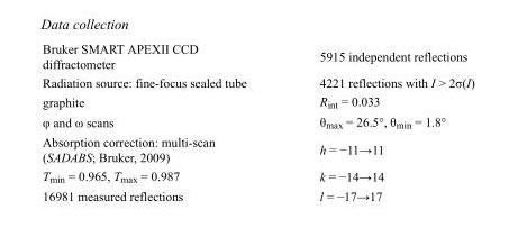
<table><tbody><tr><td>Bruker SMART APEXII CCD diffractometer</td><td>5915 independent reflections</td></tr><tr><td>Radiation source: fine-focus sealed tube</td><td>4221 reflections with I &gt; 2σ(I)</td></tr><tr><td>graphite</td><td>R<sub>int</sub> = 0.033</td></tr><tr><td>φ and ω scans</td><td>θ<sub>max</sub> = 26.5°, θ<sub>min</sub> = 1.8°</td></tr><tr><td>Absorption correction: multi-scan (SADABS; Bruker, 2009)</td><td>h = −11→11</td></tr><tr><td>T<sub>min</sub> = 0.965, T<sub>max</sub> = 0.987</td><td>k = −14→14</td></tr><tr><td>16981 measured reflections</td><td>l = −17→17</td></tr></tbody></table>